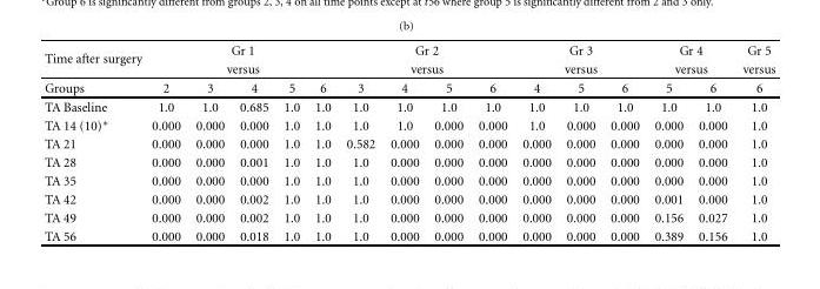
<table><thead><tr><td rowspan="3">Time after surgery Groups</td><td rowspan="2" colspan="5">Gr 1 versus</td><td rowspan="2" colspan="4">Gr 2 versus</td><td rowspan="2" colspan="3">Gr 3 versus</td><td rowspan="2" colspan="2">Gr 4 versus</td><td rowspan="3">Gr 5 versus 6</td></tr><tr></tr><tr><td>2</td><td>3</td><td>4</td><td>5</td><td>6</td><td>3</td><td>4</td><td>5</td><td>6</td><td>4</td><td>5</td><td>6</td><td>5</td><td>6</td></tr></thead><tbody><tr><td>TA Baseline</td><td>1.0</td><td>1.0</td><td>0.685</td><td>1.0</td><td>1.0</td><td>1.0</td><td>1.0</td><td>1.0</td><td>1.0</td><td>1.0</td><td>1.0</td><td>1.0</td><td>1.0</td><td>1.0</td><td>1.0</td></tr><tr><td>TA 14 (10)∗</td><td>0.000</td><td>0.000</td><td>0.000</td><td>1.0</td><td>1.0</td><td>1.0</td><td>1.0</td><td>0.000</td><td>0.000</td><td>1.0</td><td>0.000</td><td>0.000</td><td>0.000</td><td>0.000</td><td>1.0</td></tr><tr><td>TA 21</td><td>0.000</td><td>0.000</td><td>0.000</td><td>1.0</td><td>1.0</td><td>0.582</td><td>0.000</td><td>0.000</td><td>0.000</td><td>0.000</td><td>0.000</td><td>0.000</td><td>0.000</td><td>0.000</td><td>1.0</td></tr><tr><td>TA 28</td><td>0.000</td><td>0.000</td><td>0.001</td><td>1.0</td><td>1.0</td><td>1.0</td><td>0.000</td><td>0.000</td><td>0.000</td><td>0.000</td><td>0.000</td><td>0.000</td><td>0.000</td><td>0.000</td><td>1.0</td></tr><tr><td>TA 35</td><td>0.000</td><td>0.000</td><td>0.000</td><td>1.0</td><td>1.0</td><td>1.0</td><td>0.000</td><td>0.000</td><td>0.000</td><td>0.000</td><td>0.000</td><td>0.000</td><td>0.000</td><td>0.000</td><td>1.0</td></tr><tr><td>TA 42</td><td>0.000</td><td>0.000</td><td>0.002</td><td>1.0</td><td>1.0</td><td>1.0</td><td>0.000</td><td>0.000</td><td>0.000</td><td>0.000</td><td>0.000</td><td>0.000</td><td>0.001</td><td>0.000</td><td>1.0</td></tr><tr><td>TA 49</td><td>0.000</td><td>0.000</td><td>0.002</td><td>1.0</td><td>1.0</td><td>1.0</td><td>0.000</td><td>0.000</td><td>0.000</td><td>0.000</td><td>0.000</td><td>0.000</td><td>0.156</td><td>0.027</td><td>1.0</td></tr><tr><td>TA 56</td><td>0.000</td><td>0.000</td><td>0.018</td><td>1.0</td><td>1.0</td><td>1.0</td><td>0.000</td><td>0.000</td><td>0.000</td><td>0.000</td><td>0.000</td><td>0.000</td><td>0.389</td><td>0.156</td><td>1.0</td></tr></tbody></table>